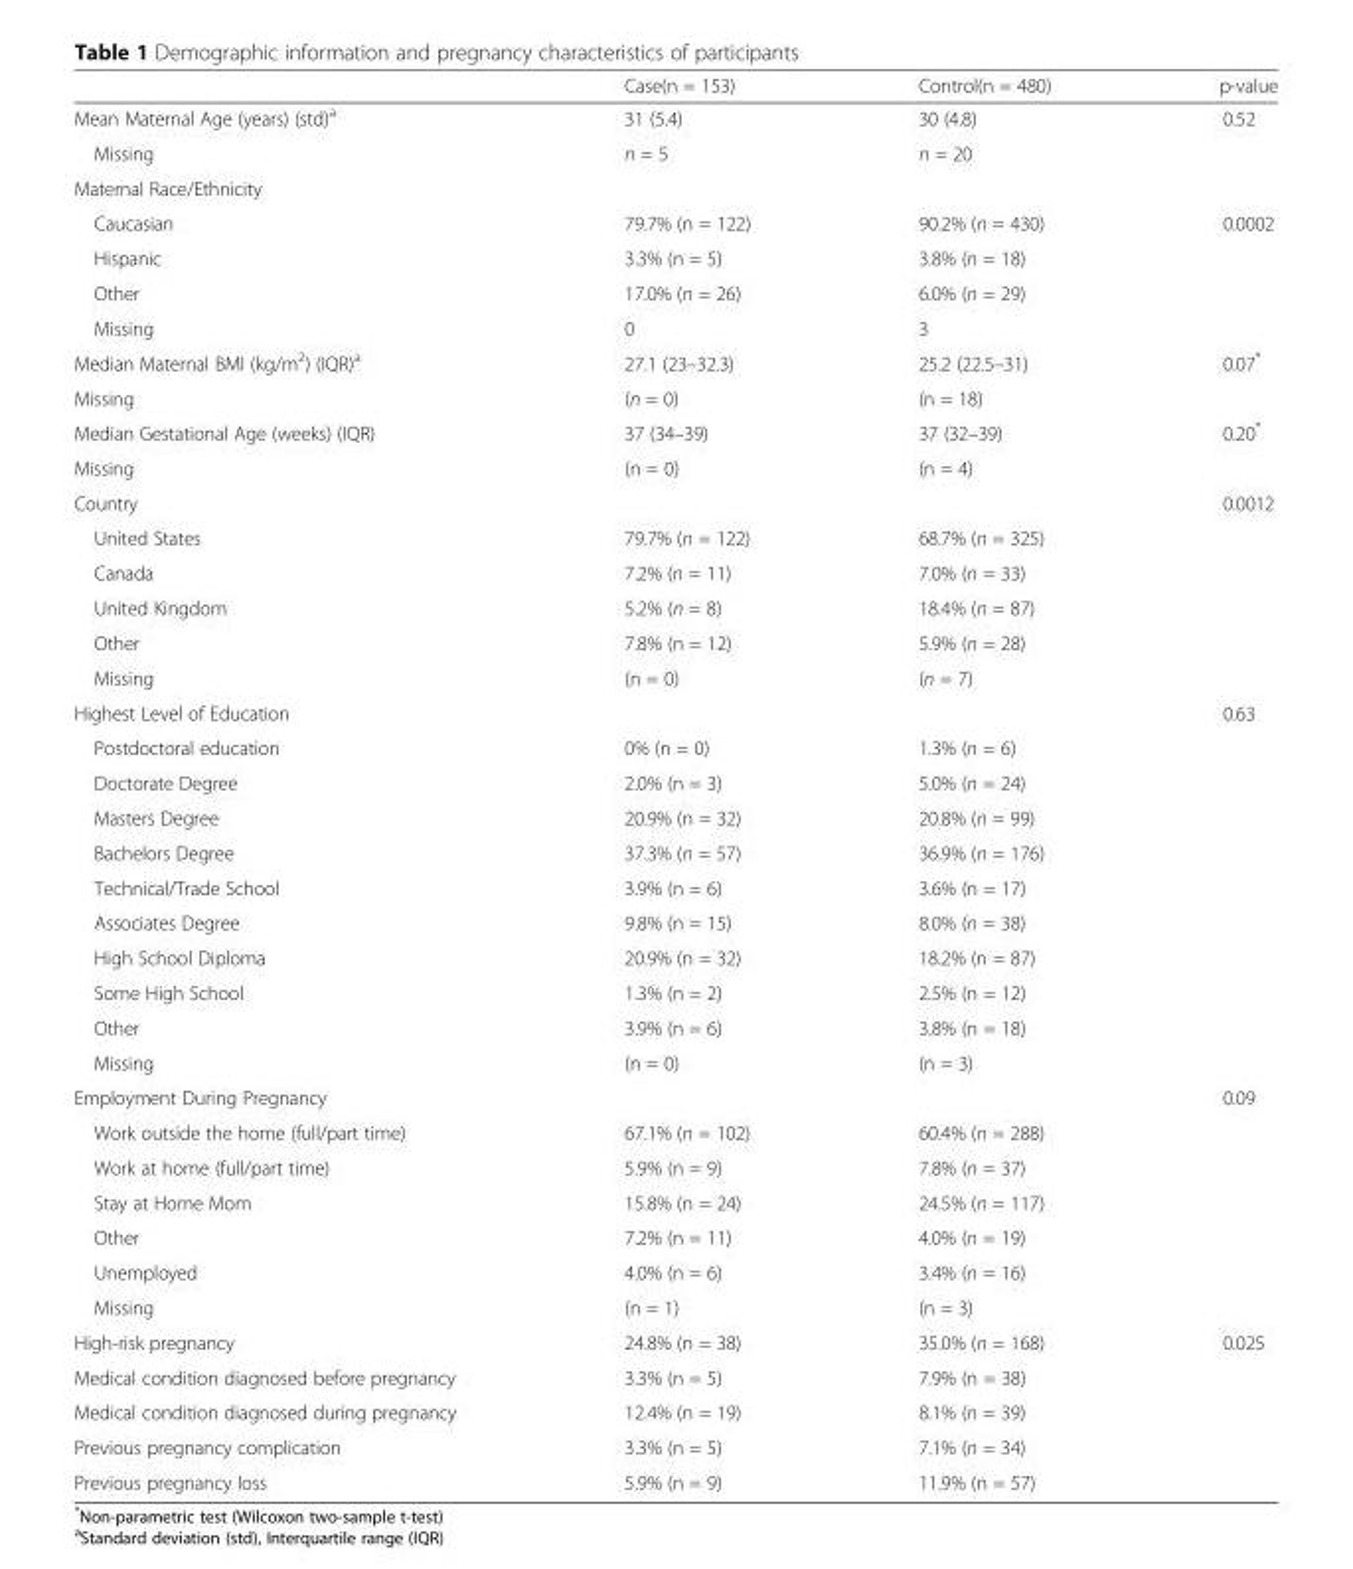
<table><thead><tr><td></td><td>Case(n = 153)</td><td>Control(n = 480)</td><td>p-value</td></tr></thead><tbody><tr><td>Mean Maternal Age (years) (std)<sup>a</sup></td><td>31 (5.4)</td><td>30 (4.8)</td><td rowspan="2">0.52</td></tr><tr><td>Missing</td><td>n = 5</td><td>n = 20</td></tr><tr><td colspan="4">Maternal Race/Ethnicity</td></tr><tr><td>Caucasian</td><td>79.7% (n = 122)</td><td>90.2% (n = 430)</td><td rowspan="4">0.0002</td></tr><tr><td>Hispanic</td><td>3.3% (n = 5)</td><td>3.8% (n = 18)</td></tr><tr><td>Other</td><td>17.0% (n = 26)</td><td>6.0% (n = 29)</td></tr><tr><td>Missing</td><td>0</td><td>3</td></tr><tr><td>Median Maternal BMI (kg/m<sup>2</sup>) (IQR)<sup>a</sup></td><td>27.1 (23–32.3)</td><td>25.2 (22.5–31)</td><td rowspan="2">0.07*</td></tr><tr><td>Missing</td><td>(n = 0)</td><td>(n = 18)</td></tr><tr><td>Median Gestational Age (weeks) (IQR)</td><td>37 (34–39)</td><td>37 (32–39)</td><td rowspan="2">0.20*</td></tr><tr><td>Missing</td><td>(n = 0)</td><td>(n = 4)</td></tr><tr><td colspan="3">Country</td><td rowspan="6">0.0012</td></tr><tr><td>United States</td><td>79.7% (n = 122)</td><td>68.7% (n = 325)</td></tr><tr><td>Canada</td><td>7.2% (n = 11)</td><td>7.0% (n = 33)</td></tr><tr><td>United Kingdom</td><td>5.2% (n = 8)</td><td>18.4% (n = 87)</td></tr><tr><td>Other</td><td>7.8% (n = 12)</td><td>5.9% (n = 28)</td></tr><tr><td>Missing</td><td>(n = 0)</td><td>(n = 7)</td></tr><tr><td colspan="3">Highest Level of Education</td><td rowspan="11">0.63</td></tr><tr><td>Postdoctoral education</td><td>0% (n = 0)</td><td>1.3% (n = 6)</td></tr><tr><td>Doctorate Degree</td><td>2.0% (n = 3)</td><td>5.0% (n = 24)</td></tr><tr><td>Masters Degree</td><td>20.9% (n = 32)</td><td>20.8% (n = 99)</td></tr><tr><td>Bachelors Degree</td><td>37.3% (n = 57)</td><td>36.9% (n = 176)</td></tr><tr><td>Technical/Trade School</td><td>3.9% (n = 6)</td><td>3.6% (n = 17)</td></tr><tr><td>Associates Degree</td><td>9.8% (n = 15)</td><td>8.0% (n = 38)</td></tr><tr><td>High School Diploma</td><td>20.9% (n = 32)</td><td>18.2% (n = 87)</td></tr><tr><td>Some High School</td><td>1.3% (n = 2)</td><td>2.5% (n = 12)</td></tr><tr><td>Other</td><td>3.9% (n = 6)</td><td>3.8% (n = 18)</td></tr><tr><td>Missing</td><td>(n = 0)</td><td>(n = 3)</td></tr><tr><td colspan="3">Employment During Pregnancy</td><td rowspan="7">0.09</td></tr><tr><td>Work outside the home (full/part time)</td><td>67.1% (n = 102)</td><td>60.4% (n = 288)</td></tr><tr><td>Work at home (full/part time)</td><td>5.9% (n = 9)</td><td>7.8% (n = 37)</td></tr><tr><td>Stay at Home Mom</td><td>15.8% (n = 24)</td><td>24.5% (n = 117)</td></tr><tr><td>Other</td><td>7.2% (n = 11)</td><td>4.0% (n = 19)</td></tr><tr><td>Unemployed</td><td>4.0% (n = 6)</td><td>3.4% (n = 16)</td></tr><tr><td>Missing</td><td>(n = 1)</td><td>(n = 3)</td></tr><tr><td>High-risk pregnancy</td><td>24.8% (n = 38)</td><td>35.0% (n = 168)</td><td>0.025</td></tr><tr><td>Medical condition diagnosed before pregnancy</td><td>3.3% (n = 5)</td><td>7.9% (n = 38)</td><td></td></tr><tr><td>Medical condition diagnosed during pregnancy</td><td>12.4% (n = 19)</td><td>8.1% (n = 39)</td><td></td></tr><tr><td>Previous pregnancy complication</td><td>3.3% (n = 5)</td><td>7.1% (n = 34)</td><td></td></tr><tr><td>Previous pregnancy loss</td><td>5.9% (n = 9)</td><td>11.9% (n = 57)</td><td></td></tr></tbody></table>